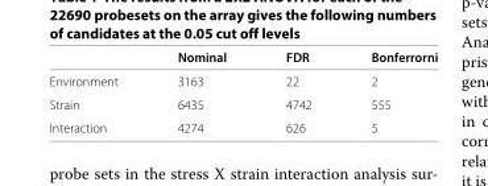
<table><thead><tr><td></td><td>Nominal</td><td>FDR</td><td>Bonferrorni</td></tr></thead><tbody><tr><td>Environment</td><td>3163</td><td>22</td><td>2</td></tr><tr><td>Strain</td><td>6435</td><td>4742</td><td>555</td></tr><tr><td>Interaction</td><td>4274</td><td>626</td><td>5</td></tr></tbody></table>